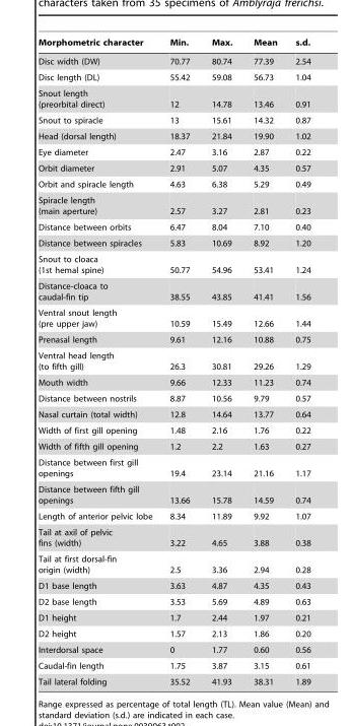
<table><thead><tr><td>Morphometric character</td><td>Min.</td><td>Max.</td><td>Mean</td><td>s.d.</td></tr></thead><tbody><tr><td>Disc width (DW)</td><td>70.77</td><td>80.74</td><td>77.39</td><td>2.54</td></tr><tr><td>Disc length (DL)</td><td>55.42</td><td>59.08</td><td>56.73</td><td>1.04</td></tr><tr><td>Snout length (preorbital direct)</td><td>12</td><td>14.78</td><td>13.46</td><td>0.91</td></tr><tr><td>Snout to spiracle</td><td>13</td><td>15.61</td><td>14.32</td><td>0.87</td></tr><tr><td>Head (dorsal length)</td><td>18.37</td><td>21.84</td><td>19.90</td><td>1.02</td></tr><tr><td>Eye diameter</td><td>2.47</td><td>3.16</td><td>2.87</td><td>0.22</td></tr><tr><td>Orbit diameter</td><td>2.91</td><td>5.07</td><td>4.35</td><td>0.57</td></tr><tr><td>Orbit and spiracle length</td><td>4.63</td><td>6.38</td><td>5.29</td><td>0.49</td></tr><tr><td>Spiracle length (main aperture)</td><td>2.57</td><td>3.27</td><td>2.81</td><td>0.23</td></tr><tr><td>Distance between orbits</td><td>6.47</td><td>8.04</td><td>7.10</td><td>0.40</td></tr><tr><td>Distance between spiracles</td><td>5.83</td><td>10.69</td><td>8.92</td><td>1.20</td></tr><tr><td>Snout to cloaca (1st hemal spine)</td><td>50.77</td><td>54.96</td><td>53.41</td><td>1.24</td></tr><tr><td>Distance-cloaca to caudal-fin tip</td><td>38.55</td><td>43.85</td><td>41.41</td><td>1.56</td></tr><tr><td>Ventral snout length (pre upper jaw)</td><td>10.59</td><td>15.49</td><td>12.66</td><td>1.44</td></tr><tr><td>Prenasal length</td><td>9.61</td><td>12.16</td><td>10.88</td><td>0.75</td></tr><tr><td>Ventral head length (to fifth gill)</td><td>26.3</td><td>30.81</td><td>29.26</td><td>1.29</td></tr><tr><td>Mouth width</td><td>9.66</td><td>12.33</td><td>11.23</td><td>0.74</td></tr><tr><td>Distance between nostrils</td><td>8.87</td><td>10.56</td><td>9.79</td><td>0.57</td></tr><tr><td>Nasal curtain (total width)</td><td>12.8</td><td>14.64</td><td>13.77</td><td>0.64</td></tr><tr><td>Width of first gill opening</td><td>1.48</td><td>2.16</td><td>1.76</td><td>0.22</td></tr><tr><td>Width of fifth gill opening</td><td>1.2</td><td>2.2</td><td>1.63</td><td>0.27</td></tr><tr><td>Distance between first gill openings</td><td>19.4</td><td>23.14</td><td>21.16</td><td>1.17</td></tr><tr><td>Distance between fifth gill openings</td><td>13.66</td><td>15.78</td><td>14.59</td><td>0.74</td></tr><tr><td>Length of anterior pelvic lobe</td><td>8.34</td><td>11.89</td><td>9.92</td><td>1.07</td></tr><tr><td>Tail at axil of pelvic fins (width)</td><td>3.22</td><td>4.65</td><td>3.88</td><td>0.38</td></tr><tr><td>Tail at first dorsal-fin origin (width)</td><td>2.5</td><td>3.36</td><td>2.94</td><td>0.28</td></tr><tr><td>D1 base length</td><td>3.63</td><td>4.87</td><td>4.35</td><td>0.43</td></tr><tr><td>D2 base length</td><td>3.53</td><td>5.69</td><td>4.89</td><td>0.63</td></tr><tr><td>D1 height</td><td>1.7</td><td>2.44</td><td>1.97</td><td>0.21</td></tr><tr><td>D2 height</td><td>1.57</td><td>2.13</td><td>1.86</td><td>0.20</td></tr><tr><td>Interdorsal space</td><td>0</td><td>1.77</td><td>0.60</td><td>0.56</td></tr><tr><td>Caudal-fin length</td><td>1.75</td><td>3.87</td><td>3.15</td><td>0.61</td></tr><tr><td>Tail lateral folding</td><td>35.52</td><td>41.93</td><td>38.31</td><td>1.89</td></tr></tbody></table>